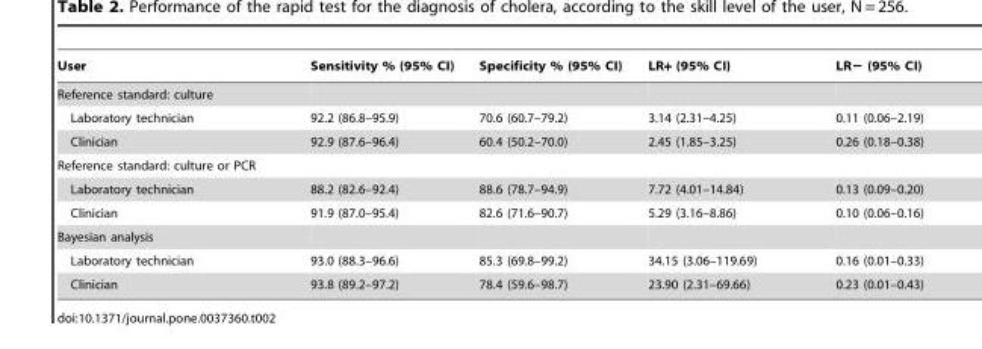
<table><thead><tr><td>User</td><td>Sensitivity % (95% CI)</td><td>Specificity % (95% CI)</td><td>LR+ (95% CI)</td><td>LR− (95% CI)</td></tr></thead><tbody><tr><td colspan="5">Reference standard: culture</td></tr><tr><td>Laboratory technician</td><td>92.2 (86.8–95.9)</td><td>70.6 (60.7–79.2)</td><td>3.14 (2.31–4.25)</td><td>0.11 (0.06–2.19)</td></tr><tr><td>Clinician</td><td>92.9 (87.6–96.4)</td><td>60.4 (50.2–70.0)</td><td>2.45 (1.85–3.25)</td><td>0.26 (0.18–0.38)</td></tr><tr><td colspan="5">Reference standard: culture or PCR</td></tr><tr><td>Laboratory technician</td><td>88.2 (82.6–92.4)</td><td>88.6 (78.7–94.9)</td><td>7.72 (4.01–14.84)</td><td>0.13 (0.09–0.20)</td></tr><tr><td>Clinician</td><td>91.9 (87.0–95.4)</td><td>82.6 (71.6–90.7)</td><td>5.29 (3.16–8.86)</td><td>0.10 (0.06–0.16)</td></tr><tr><td colspan="5">Bayesian analysis</td></tr><tr><td>Laboratory technician</td><td>93.0 (88.3–96.6)</td><td>85.3 (69.8–99.2)</td><td>34.15 (3.06–119.69)</td><td>0.16 (0.01–0.33)</td></tr><tr><td>Clinician</td><td>93.8 (89.2–97.2)</td><td>78.4 (59.6–98.7)</td><td>23.90 (2.31–69.66)</td><td>0.23 (0.01–0.43)</td></tr></tbody></table>